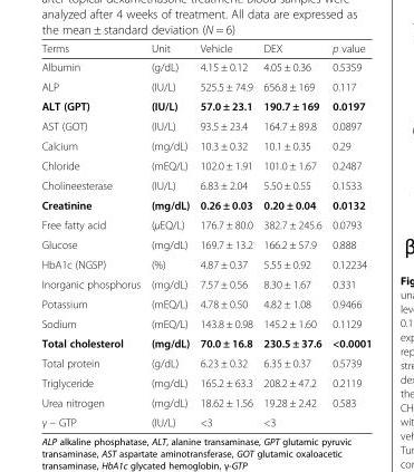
<table><thead><tr><td>Terms</td><td>Unit</td><td>Vehicle</td><td>DEX</td><td>p value</td></tr></thead><tbody><tr><td>Albumin</td><td>(g/dL)</td><td>4.15 ± 0.12</td><td>4.05 ± 0.36</td><td>0.5359</td></tr><tr><td>ALP</td><td>(IU/L)</td><td>525.5 ± 74.9</td><td>656.8 ± 169</td><td>0.117</td></tr><tr><td>ALT (GPT)</td><td>(IU/L)</td><td>57.0 ± 23.1</td><td>190.7 ± 169</td><td>0.0197</td></tr><tr><td>AST (GOT)</td><td>(IU/L)</td><td>93.5 ± 23.4</td><td>164.7 ± 89.8</td><td>0.0897</td></tr><tr><td>Calcium</td><td>(mg/dL)</td><td>10.3 ± 0.32</td><td>10.1 ± 0.35</td><td>0.29</td></tr><tr><td>Chloride</td><td>(mEQ/L)</td><td>102.0 ± 1.91</td><td>101.0 ± 1.67</td><td>0.2487</td></tr><tr><td>Cholineesterase</td><td>(IU/L)</td><td>6.83 ± 2.04</td><td>5.50 ± 0.55</td><td>0.1533</td></tr><tr><td>Creatinine</td><td>(mg/dL)</td><td>0.26 ± 0.03</td><td>0.20 ± 0.04</td><td>0.0132</td></tr><tr><td>Free fatty acid</td><td>(μEQ/L)</td><td>176.7 ± 80.0</td><td>382.7 ± 245.6</td><td>0.0793</td></tr><tr><td>Glucose</td><td>(mg/dL)</td><td>169.7 ± 13.2</td><td>166.2 ± 57.9</td><td>0.888</td></tr><tr><td>HbA1c (NGSP)</td><td>(%)</td><td>4.87 ± 0.37</td><td>5.55 ± 0.92</td><td>0.12234</td></tr><tr><td>Inorganic phosphorus</td><td>(mg/dL)</td><td>7.57 ± 0.56</td><td>8.30 ± 1.67</td><td>0.331</td></tr><tr><td>Potassium</td><td>(mEQ/L)</td><td>4.78 ± 0.50</td><td>4.82 ± 1.08</td><td>0.9466</td></tr><tr><td>Sodium</td><td>(mEQ/L)</td><td>143.8 ± 0.98</td><td>145.2 ± 1.60</td><td>0.1129</td></tr><tr><td>Total cholesterol</td><td>(mg/dL)</td><td>70.0 ± 16.8</td><td>230.5 ± 37.6</td><td>&lt;0.0001</td></tr><tr><td>Total protein</td><td>(g/dL)</td><td>6.23 ± 0.32</td><td>6.35 ± 0.37</td><td>0.5739</td></tr><tr><td>Triglyceride</td><td>(mg/dL)</td><td>165.2 ± 63.3</td><td>208.2 ± 47.2</td><td>0.2119</td></tr><tr><td>Urea nitrogen</td><td>(mg/dL)</td><td>18.62 ± 1.56</td><td>19.28 ± 2.42</td><td>0.583</td></tr><tr><td>γ – GTP</td><td>(IU/L)</td><td>&lt;3</td><td>&lt;3</td><td></td></tr></tbody></table>